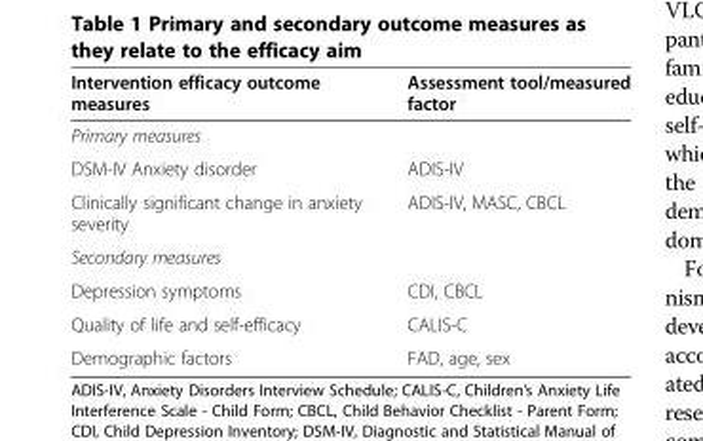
<table><thead><tr><td>Intervention efficacy outcome measures</td><td>Assessment tool/measured factor</td></tr></thead><tbody><tr><td colspan="2">Primary measures</td></tr><tr><td>DSM-IV Anxiety disorder</td><td>ADIS-IV</td></tr><tr><td>Clinically significant change in anxiety severity</td><td>ADIS-IV, MASC, CBCL</td></tr><tr><td colspan="2">Secondary measures</td></tr><tr><td>Depression symptoms</td><td>CDI, CBCL</td></tr><tr><td>Quality of life and self-efficacy</td><td>CALIS-C</td></tr><tr><td>Demographic factors</td><td>FAD, age, sex</td></tr></tbody></table>